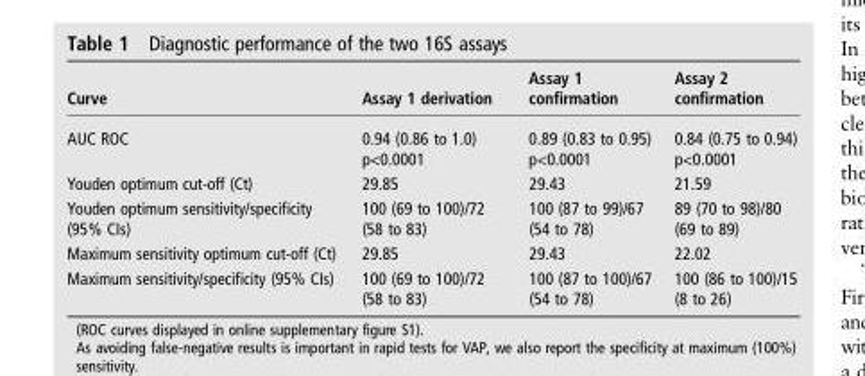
<table><thead><tr><td>Curve</td><td>Assay 1 derivation</td><td>Assay 1 confirmation</td><td>Assay 2 confirmation</td></tr></thead><tbody><tr><td>AUC ROC</td><td>0.94 (0.86 to 1.0) p&lt;0.0001</td><td>0.89 (0.83 to 0.95) p&lt;0.0001</td><td>0.84 (0.75 to 0.94) p&lt;0.0001</td></tr><tr><td>Youden optimum cut-off (Ct)</td><td>29.85</td><td>29.43</td><td>21.59</td></tr><tr><td>Youden optimum sensitivity/specificity (95% CIs)</td><td>100 (69 to 100)/72 (58 to 83)</td><td>100 (87 to 99)/67 (54 to 78)</td><td>89 (70 to 98)/80 (69 to 89)</td></tr><tr><td>Maximum sensitivity optimum cut-off (Ct)</td><td>29.85</td><td>29.43</td><td>22.02</td></tr><tr><td>Maximum sensitivity/specificity (95% CIs)</td><td>100 (69 to 100)/72 (58 to 83)</td><td>100 (87 to 100)/67 (54 to 78)</td><td>100 (86 to 100)/15 (8 to 26)</td></tr></tbody></table>